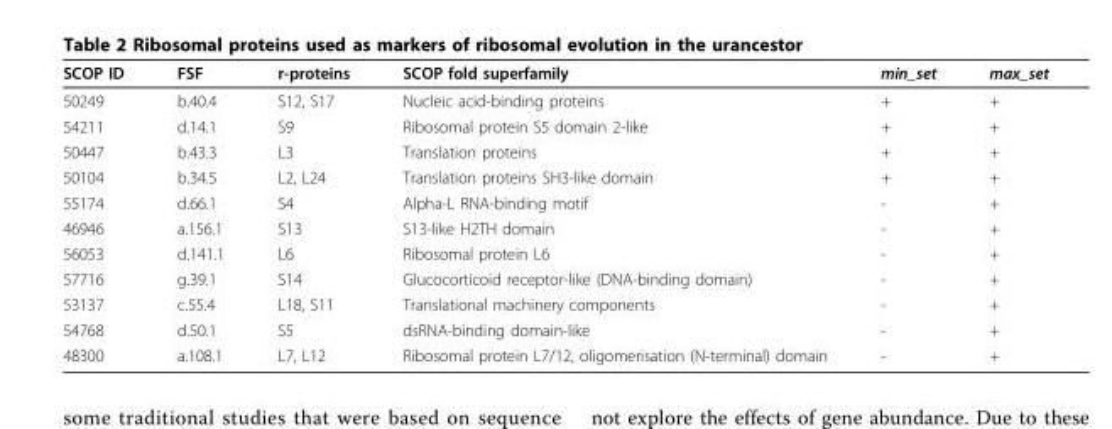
<table><thead><tr><td>SCOP ID</td><td>FSF</td><td>r-proteins</td><td>SCOP fold superfamily</td><td>min_set</td><td>max_set</td></tr></thead><tbody><tr><td>50249</td><td>b.40.4</td><td>S12, S17</td><td>Nucleic acid-binding proteins</td><td>+</td><td>+</td></tr><tr><td>54211</td><td>d.14.1</td><td>S9</td><td>Ribosomal protein S5 domain 2-like</td><td>+</td><td>+</td></tr><tr><td>50447</td><td>b.43.3</td><td>L3</td><td>Translation proteins</td><td>+</td><td>+</td></tr><tr><td>50104</td><td>b.34.5</td><td>L2, L24</td><td>Translation proteins SH3-like domain</td><td>+</td><td>+</td></tr><tr><td>55174</td><td>d.66.1</td><td>S4</td><td>Alpha-L RNA-binding motif</td><td>-</td><td>+</td></tr><tr><td>46946</td><td>a.156.1</td><td>S13</td><td>S13-like H2TH domain</td><td>-</td><td>+</td></tr><tr><td>56053</td><td>d.141.1</td><td>L6</td><td>Ribosomal protein L6</td><td>-</td><td>+</td></tr><tr><td>57716</td><td>g.39.1</td><td>S14</td><td>Glucocorticoid receptor-like (DNA-binding domain)</td><td>-</td><td>+</td></tr><tr><td>53137</td><td>c.55.4</td><td>L18, S11</td><td>Translational machinery components</td><td>-</td><td>+</td></tr><tr><td>54768</td><td>d.50.1</td><td>S5</td><td>dsRNA-binding domain-like</td><td>-</td><td>+</td></tr><tr><td>48300</td><td>a.108.1</td><td>L7, L12</td><td>Ribosomal protein L7/12, oligomerisation (N-terminal) domain</td><td>-</td><td>+</td></tr></tbody></table>